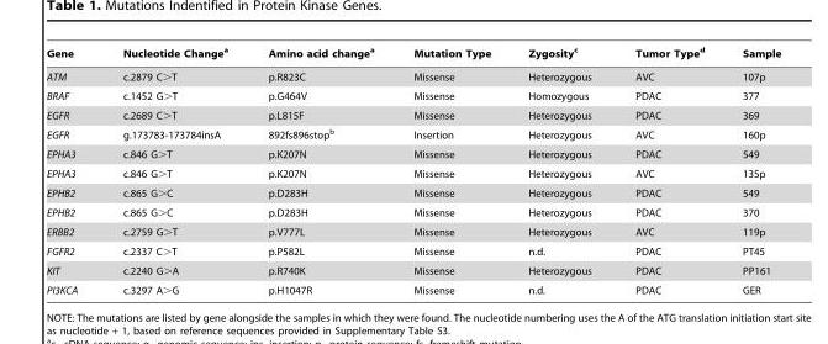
<table><thead><tr><td>Gene</td><td>Nucleotide Change<sup>a</sup></td><td>Amino acid change<sup>a</sup></td><td>Mutation Type</td><td>Zygosity<sup>c</sup></td><td>Tumor Type<sup>d</sup></td><td>Sample</td></tr></thead><tbody><tr><td>ATM</td><td>c.2879 C&gt;T</td><td>p.R823C</td><td>Missense</td><td>Heterozygous</td><td>AVC</td><td>107p</td></tr><tr><td>BRAF</td><td>c.1452 G&gt;T</td><td>p.G464V</td><td>Missense</td><td>Homozygous</td><td>PDAC</td><td>377</td></tr><tr><td>EGFR</td><td>c.2689 C&gt;T</td><td>p.L815F</td><td>Missense</td><td>Heterozygous</td><td>PDAC</td><td>369</td></tr><tr><td>EGFR</td><td>g.173783-173784insA</td><td>892fs896stop<sup>b</sup></td><td>Insertion</td><td>Heterozygous</td><td>AVC</td><td>160p</td></tr><tr><td>EPHA3</td><td>c.846 G&gt;T</td><td>p.K207N</td><td>Missense</td><td>Heterozygous</td><td>PDAC</td><td>549</td></tr><tr><td>EPHA3</td><td>c.846 G&gt;T</td><td>p.K207N</td><td>Missense</td><td>Heterozygous</td><td>AVC</td><td>135p</td></tr><tr><td>EPHB2</td><td>c.865 G&gt;C</td><td>p.D283H</td><td>Missense</td><td>Heterozygous</td><td>PDAC</td><td>549</td></tr><tr><td>EPHB2</td><td>c.865 G&gt;C</td><td>p.D283H</td><td>Missense</td><td>Heterozygous</td><td>PDAC</td><td>370</td></tr><tr><td>ERBB2</td><td>c.2759 G&gt;T</td><td>p.V777L</td><td>Missense</td><td>Heterozygous</td><td>AVC</td><td>119p</td></tr><tr><td>FGFR2</td><td>c.2337 C&gt;T</td><td>p.P582L</td><td>Missense</td><td>n.d.</td><td>PDAC</td><td>PT45</td></tr><tr><td>KIT</td><td>c.2240 G&gt;A</td><td>p.R740K</td><td>Missense</td><td>Heterozygous</td><td>PDAC</td><td>PP161</td></tr><tr><td>PI3KCA</td><td>c.3297 A&gt;G</td><td>p.H1047R</td><td>Missense</td><td>n.d.</td><td>PDAC</td><td>GER</td></tr></tbody></table>